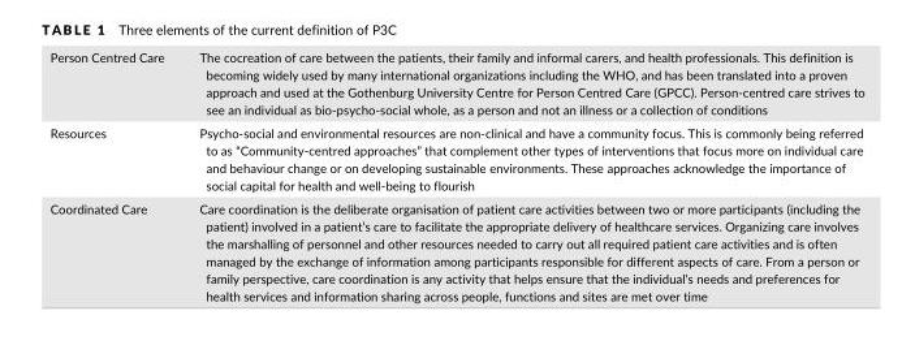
<table><tbody><tr><td>Person Centred Care</td><td>The cocreation of care between the patients, their family and informal carers, and health professionals. This definition is becoming widely used by many international organizations including the WHO, and has been translated into a proven approach and used at the Gothenburg University Centre for Person Centred Care (GPCC). Person- centred care strives to see an individual as bio- psycho- social whole, as a person and not an illness or a collection of conditions</td></tr><tr><td>Resources</td><td>Psycho- social and environmental resources are non- clinical and have a community focus. This is commonly being referred to as “Community- centred approaches” that complement other types of interventions that focus more on individual care and behaviour change or on developing sustainable environments. These approaches acknowledge the importance of social capital for health and well- being to flourish</td></tr><tr><td>Coordinated Care</td><td>Care coordination is the deliberate organisation of patient care activities between two or more participants (including the patient) involved in a patient’s care to facilitate the appropriate delivery of healthcare services. Organizing care involves the marshalling of personnel and other resources needed to carry out all required patient care activities and is often managed by the exchange of information among participants responsible for different aspects of care. From a person or family perspective, care coordination is any activity that helps ensure that the individual’s needs and preferences for health services and information sharing across people, functions and sites are met over time</td></tr></tbody></table>